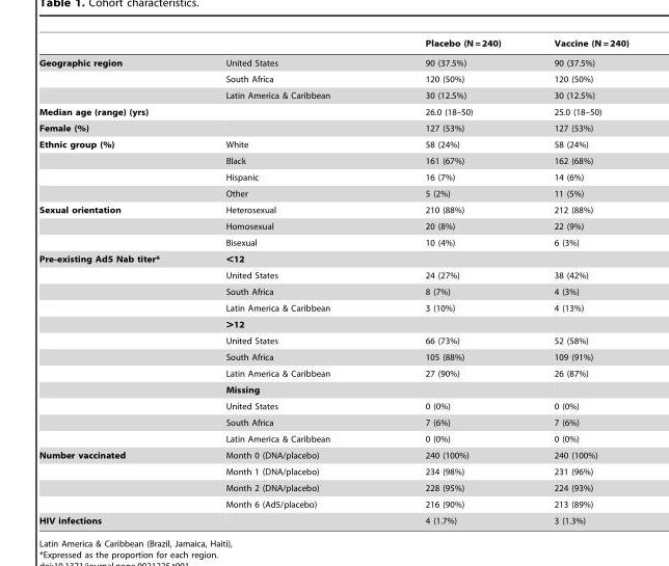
<table><thead><tr><td></td><td></td><td>Placebo (N = 240)</td><td>Vaccine (N = 240)</td></tr></thead><tbody><tr><td rowspan="3">Geographic region</td><td>United States</td><td>90 (37.5%)</td><td>90 (37.5%)</td></tr><tr><td>South Africa</td><td>120 (50%)</td><td>120 (50%)</td></tr><tr><td>Latin America &amp; Caribbean</td><td>30 (12.5%)</td><td>30 (12.5%)</td></tr><tr><td>Median age (range) (yrs)</td><td></td><td>26.0 (18–50)</td><td>25.0 (18–50)</td></tr><tr><td>Female (%)</td><td></td><td>127 (53%)</td><td>127 (53%)</td></tr><tr><td rowspan="4">Ethnic group (%)</td><td>White</td><td>58 (24%)</td><td>58 (24%)</td></tr><tr><td>Black</td><td>161 (67%)</td><td>162 (68%)</td></tr><tr><td>Hispanic</td><td>16 (7%)</td><td>14 (6%)</td></tr><tr><td>Other</td><td>5 (2%)</td><td>11 (5%)</td></tr><tr><td rowspan="3">Sexual orientation</td><td>Heterosexual</td><td>210 (88%)</td><td>212 (88%)</td></tr><tr><td>Homosexual</td><td>20 (8%)</td><td>22 (9%)</td></tr><tr><td>Bisexual</td><td>10 (4%)</td><td>6 (3%)</td></tr><tr><td rowspan="12">Pre-existing Ad5 Nab titer*</td><td>&lt;12</td><td></td><td></td></tr><tr><td>United States</td><td>24 (27%)</td><td>38 (42%)</td></tr><tr><td>South Africa</td><td>8 (7%)</td><td>4 (3%)</td></tr><tr><td>Latin America &amp; Caribbean</td><td>3 (10%)</td><td>4 (13%)</td></tr><tr><td>&gt;12</td><td></td><td></td></tr><tr><td>United States</td><td>66 (73%)</td><td>52 (58%)</td></tr><tr><td>South Africa</td><td>105 (88%)</td><td>109 (91%)</td></tr><tr><td>Latin America &amp; Caribbean</td><td>27 (90%)</td><td>26 (87%)</td></tr><tr><td>Missing</td><td></td><td></td></tr><tr><td>United States</td><td>0 (0%)</td><td>0 (0%)</td></tr><tr><td>South Africa</td><td>7 (6%)</td><td>7 (6%)</td></tr><tr><td>Latin America &amp; Caribbean</td><td>0 (0%)</td><td>0 (0%)</td></tr><tr><td rowspan="4">Number vaccinated</td><td>Month 0 (DNA/placebo)</td><td>240 (100%)</td><td>240 (100%)</td></tr><tr><td>Month 1 (DNA/placebo)</td><td>234 (98%)</td><td>231 (96%)</td></tr><tr><td>Month 2 (DNA/placebo)</td><td>228 (95%)</td><td>224 (93%)</td></tr><tr><td>Month 6 (Ad5/placebo)</td><td>216 (90%)</td><td>213 (89%)</td></tr><tr><td>HIV infections</td><td></td><td>4 (1.7%)</td><td>3 (1.3%)</td></tr></tbody></table>